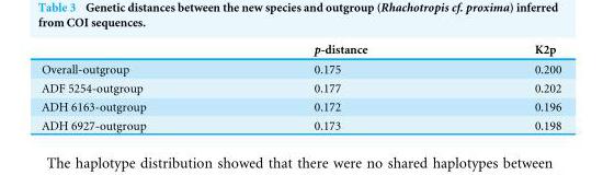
<table><thead><tr><td></td><td>p-distance</td><td>K2p</td></tr></thead><tbody><tr><td>Overall-outgroup</td><td>0.175</td><td>0.200</td></tr><tr><td>ADF 5254-outgroup</td><td>0.177</td><td>0.202</td></tr><tr><td>ADH 6163-outgroup</td><td>0.172</td><td>0.196</td></tr><tr><td>ADH 6927-outgroup</td><td>0.173</td><td>0.198</td></tr></tbody></table>